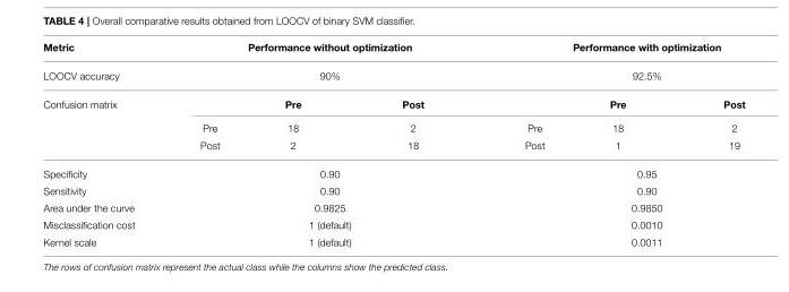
<table><thead><tr><td rowspan="3">Metric LOOCV accuracy Confusion matrix</td><td rowspan="2" colspan="3">Performance without optimization 90%</td><td rowspan="2" colspan="3">Performance with optimization 92.5%</td></tr><tr></tr><tr><td></td><td>Pre</td><td>Post</td><td></td><td>Pre</td><td>Post</td></tr></thead><tbody><tr><td></td><td>Pre</td><td>18</td><td>2</td><td>Pre</td><td>18</td><td>2</td></tr><tr><td></td><td>Post</td><td>2</td><td>18</td><td>Post</td><td>1</td><td>19</td></tr><tr><td>Specificity</td><td colspan="3">0.90</td><td colspan="3">0.95</td></tr><tr><td>Sensitivity</td><td colspan="3">0.90</td><td colspan="3">0.90</td></tr><tr><td>Area under the curve</td><td colspan="3">0.9825</td><td colspan="3">0.9850</td></tr><tr><td>Misclassification cost</td><td colspan="3">1 (default)</td><td colspan="3">0.0010</td></tr><tr><td>Kernel scale</td><td colspan="3">1 (default)</td><td colspan="3">0.0011</td></tr></tbody></table>